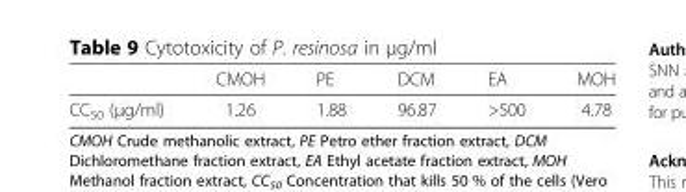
<table><thead><tr><td></td><td>CMOH</td><td>PE</td><td>DCM</td><td>EA</td><td>MOH</td></tr></thead><tbody><tr><td>CC<sub>50</sub> (μg/ml)</td><td>1.26</td><td>1.88</td><td>96.87</td><td>&gt;500</td><td>4.78</td></tr></tbody></table>